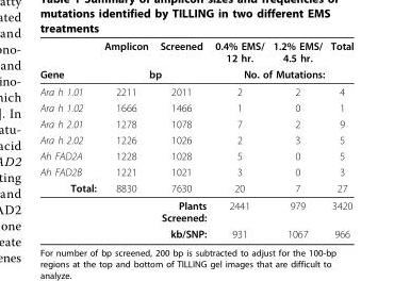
<table><thead><tr><td rowspan="2">Gene</td><td>Amplicon</td><td>Screened</td><td>0.4% EMS/ 12 hr.</td><td>1.2% EMS/ 4.5 hr.</td><td>Total</td></tr><tr><td colspan="2">bp</td><td colspan="3">No. of Mutations:</td></tr></thead><tbody><tr><td>Ara h 1.01</td><td>2211</td><td>2011</td><td>2</td><td>2</td><td>4</td></tr><tr><td>Ara h 1.02</td><td>1666</td><td>1466</td><td>1</td><td>0</td><td>1</td></tr><tr><td>Ara h 2.01</td><td>1278</td><td>1078</td><td>7</td><td>2</td><td>9</td></tr><tr><td>Ara h 2.02</td><td>1226</td><td>1026</td><td>2</td><td>3</td><td>5</td></tr><tr><td>Ah FAD2A</td><td>1228</td><td>1028</td><td>5</td><td>0</td><td>5</td></tr><tr><td>Ah FAD2B</td><td>1221</td><td>1021</td><td>3</td><td>0</td><td>3</td></tr><tr><td rowspan="3">Total:</td><td>8830</td><td>7630</td><td>20</td><td>7</td><td>27</td></tr><tr><td></td><td>Plants Screened:</td><td>2441</td><td>979</td><td>3420</td></tr><tr><td></td><td>kb/SNP:</td><td>931</td><td>1067</td><td>966</td></tr></tbody></table>